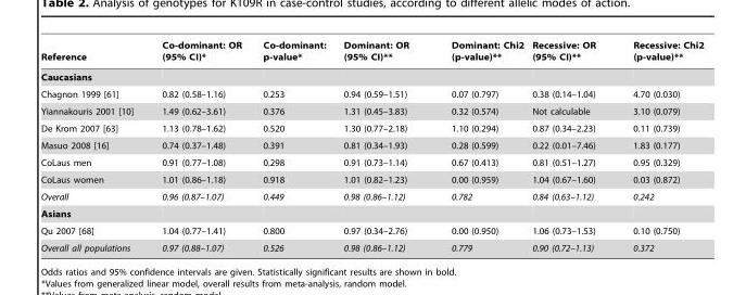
<table><thead><tr><td>Reference</td><td>Co-dominant: OR (95% CI)*</td><td>Co-dominant: p-value*</td><td>Dominant: OR (95% CI)**</td><td>Dominant: Chi2 (p-value)**</td><td>Recessive: OR (95% CI)**</td><td>Recessive: Chi2 (p-value)**</td></tr></thead><tbody><tr><td colspan="7">Caucasians</td></tr><tr><td>Chagnon 1999 [61]</td><td>0.82 (0.58–1.16)</td><td>0.253</td><td>0.94 (0.59–1.51)</td><td>0.07 (0.797)</td><td>0.38 (0.14–1.04)</td><td>4.70 (0.030)</td></tr><tr><td>Yiannakouris 2001 [10]</td><td>1.49 (0.62–3.61)</td><td>0.376</td><td>1.31 (0.45–3.83)</td><td>0.32 (0.574)</td><td>Not calculable</td><td>3.10 (0.079)</td></tr><tr><td>De Krom 2007 [63]</td><td>1.13 (0.78–1.62)</td><td>0.520</td><td>1.30 (0.77–2.18)</td><td>1.10 (0.294)</td><td>0.87 (0.34–2.23)</td><td>0.11 (0.739)</td></tr><tr><td>Masuo 2008 [16]</td><td>0.74 (0.37–1.48)</td><td>0.391</td><td>0.81 (0.34–1.93)</td><td>0.28 (0.599)</td><td>0.22 (0.01–7.46)</td><td>1.83 (0.177)</td></tr><tr><td>CoLaus men</td><td>0.91 (0.77–1.08)</td><td>0.298</td><td>0.91 (0.73–1.14)</td><td>0.67 (0.413)</td><td>0.81 (0.51–1.27)</td><td>0.95 (0.329)</td></tr><tr><td>CoLaus women</td><td>1.01 (0.86–1.18)</td><td>0.918</td><td>1.01 (0.82–1.23)</td><td>0.00 (0.959)</td><td>1.04 (0.67–1.60)</td><td>0.03 (0.872)</td></tr><tr><td>Overall</td><td>0.96 (0.87–1.07)</td><td>0.449</td><td>0.98 (0.86–1.12)</td><td>0.782</td><td>0.84 (0.63–1.12)</td><td>0.242</td></tr><tr><td colspan="7">Asians</td></tr><tr><td>Qu 2007 [68]</td><td>1.04 (0.77–1.41)</td><td>0.800</td><td>0.97 (0.34–2.76)</td><td>0.00 (0.950)</td><td>1.06 (0.73–1.53)</td><td>0.10 (0.750)</td></tr><tr><td>Overall all populations</td><td>0.97 (0.88–1.07)</td><td>0.526</td><td>0.98 (0.86–1.12)</td><td>0.779</td><td>0.90 (0.72–1.13)</td><td>0.372</td></tr></tbody></table>